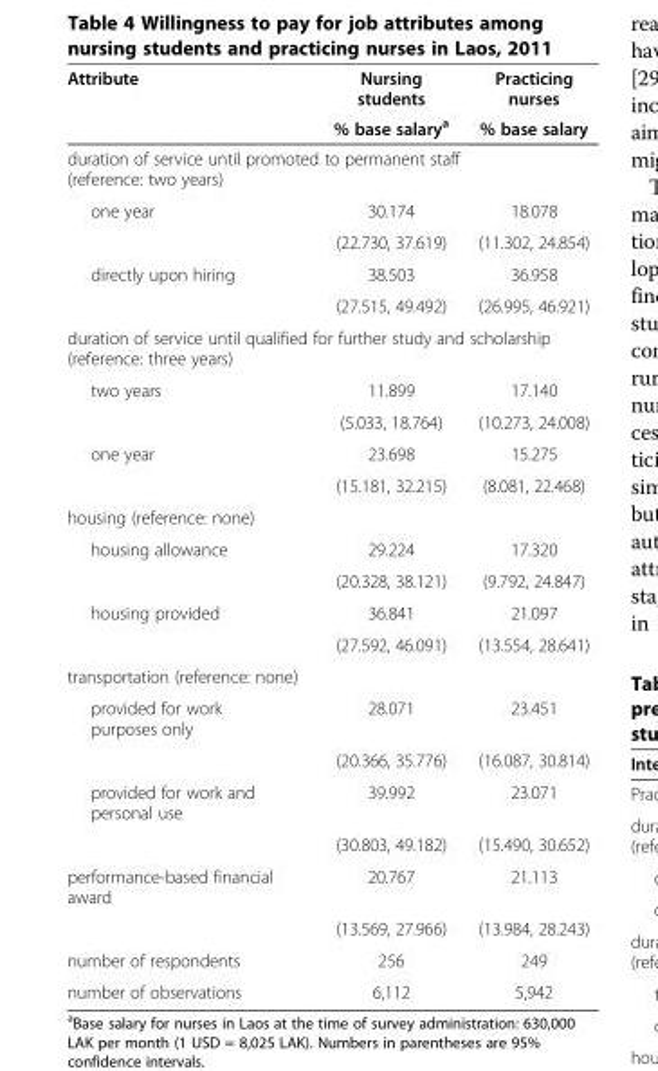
<table><thead><tr><td rowspan="2">Attribute</td><td rowspan="2">Nursing students % base salary<sup>a</sup></td><td rowspan="2">Practicing nurses % base salary</td></tr><tr></tr></thead><tbody><tr><td colspan="3">duration of service until promoted to permanent staff (reference: two years)</td></tr><tr><td rowspan="2">one year</td><td>30.174</td><td>18.078</td></tr><tr><td>(22.730, 37.619)</td><td>(11.302, 24.854)</td></tr><tr><td rowspan="2">directly upon hiring</td><td>38.503</td><td>36.958</td></tr><tr><td>(27.515, 49.492)</td><td>(26.995, 46.921)</td></tr><tr><td colspan="3">duration of service until qualified for further study and scholarship (reference: three years)</td></tr><tr><td rowspan="2">two years</td><td>11.899</td><td>17.140</td></tr><tr><td>(5.033, 18.764)</td><td>(10.273, 24.008)</td></tr><tr><td rowspan="2">one year</td><td>23.698</td><td>15.275</td></tr><tr><td>(15.181, 32.215)</td><td>(8.081, 22.468)</td></tr><tr><td colspan="3">housing (reference: none)</td></tr><tr><td rowspan="2">housing allowance</td><td>29.224</td><td>17.320</td></tr><tr><td>(20.328, 38.121)</td><td>(9.792, 24.847)</td></tr><tr><td rowspan="2">housing provided</td><td>36.841</td><td>21.097</td></tr><tr><td>(27.592, 46.091)</td><td>(13.554, 28.641)</td></tr><tr><td colspan="3">transportation (reference: none)</td></tr><tr><td rowspan="2">provided for work purposes only</td><td>28.071</td><td>23.451</td></tr><tr><td>(20.366, 35.776)</td><td>(16.087, 30.814)</td></tr><tr><td rowspan="2">provided for work and personal use</td><td>39.992</td><td>23.071</td></tr><tr><td>(30.803, 49.182)</td><td>(15.490, 30.652)</td></tr><tr><td rowspan="2">performance-based financial award</td><td>20.767</td><td>21.113</td></tr><tr><td>(13.569, 27.966)</td><td>(13.984, 28.243)</td></tr><tr><td>number of respondents</td><td>256</td><td>249</td></tr><tr><td>number of observations</td><td>6,112</td><td>5,942</td></tr></tbody></table>